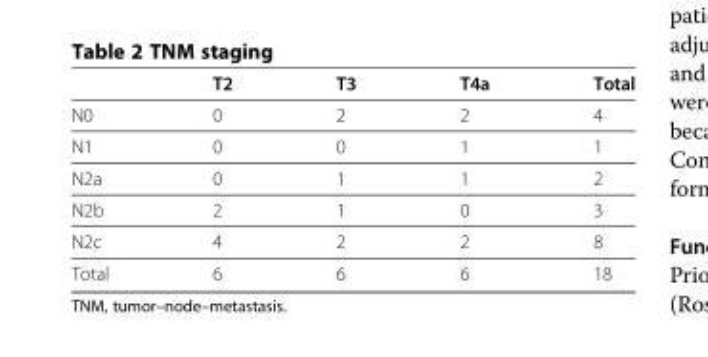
<table><thead><tr><td></td><td>T2</td><td>T3</td><td>T4a</td><td>Total</td></tr></thead><tbody><tr><td>N0</td><td>0</td><td>2</td><td>2</td><td>4</td></tr><tr><td>N1</td><td>0</td><td>0</td><td>1</td><td>1</td></tr><tr><td>N2a</td><td>0</td><td>1</td><td>1</td><td>2</td></tr><tr><td>N2b</td><td>2</td><td>1</td><td>0</td><td>3</td></tr><tr><td>N2c</td><td>4</td><td>2</td><td>2</td><td>8</td></tr><tr><td>Total</td><td>6</td><td>6</td><td>6</td><td>18</td></tr></tbody></table>